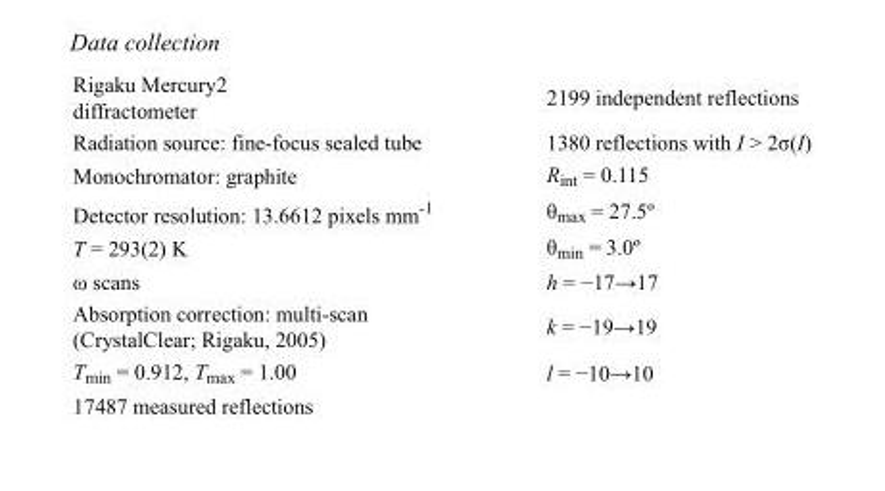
<table><tbody><tr><td>Rigaku Mercury2 diffractometer</td><td>2199 independent reflections</td></tr><tr><td>Radiation source: fine-focus sealed tube</td><td>1380 reflections with I &gt; 2σ(I)</td></tr><tr><td>Monochromator: graphite</td><td>R<sub>int</sub> = 0.115</td></tr><tr><td>Detector resolution: 13.6612 pixels mm<sup>-1</sup></td><td>θ<sub>max</sub> = 27.5º</td></tr><tr><td>T = 293(2) K</td><td>θ<sub>min</sub> = 3.0º</td></tr><tr><td>ω scans</td><td>h = −17→17</td></tr><tr><td>Absorption correction: multi-scan (CrystalClear; Rigaku, 2005)</td><td>k = −19→19</td></tr><tr><td>T<sub>min</sub> = 0.912, T<sub>max</sub> = 1.00</td><td>l = −10→10</td></tr><tr><td>17487 measured reflections</td><td></td></tr></tbody></table>